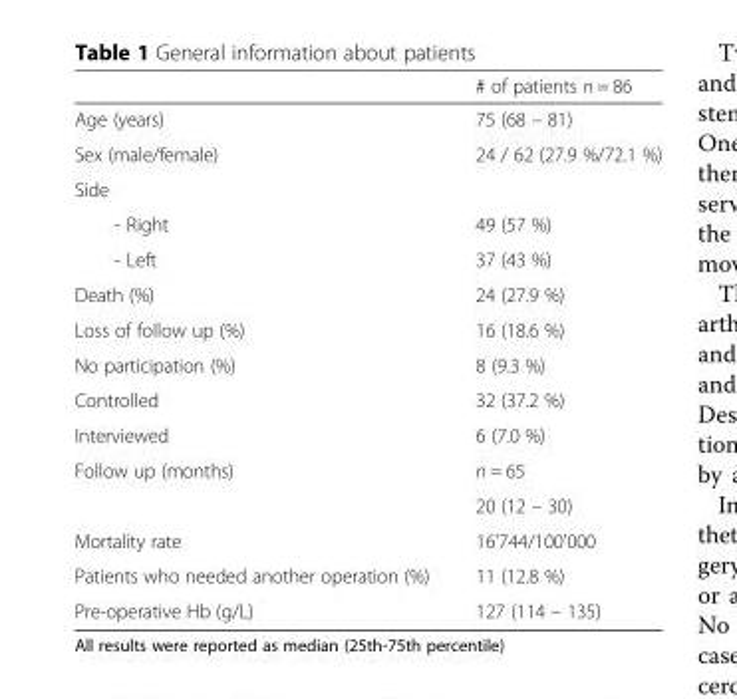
<table><thead><tr><td></td><td># of patients n = 86</td></tr></thead><tbody><tr><td>Age (years)</td><td>75 (68 – 81)</td></tr><tr><td>Sex (male/female)</td><td>24 / 62 (27.9 %/72.1 %)</td></tr><tr><td colspan="2">Side</td></tr><tr><td>- Right</td><td>49 (57 %)</td></tr><tr><td>- Left</td><td>37 (43 %)</td></tr><tr><td>Death (%)</td><td>24 (27.9 %)</td></tr><tr><td>Loss of follow up (%)</td><td>16 (18.6 %)</td></tr><tr><td>No participation (%)</td><td>8 (9.3 %)</td></tr><tr><td>Controlled</td><td>32 (37.2 %)</td></tr><tr><td>Interviewed</td><td>6 (7.0 %)</td></tr><tr><td rowspan="2">Follow up (months)</td><td>n = 65</td></tr><tr><td>20 (12 – 30)</td></tr><tr><td>Mortality rate</td><td>16&#x27;744/100&#x27;000</td></tr><tr><td>Patients who needed another operation (%)</td><td>11 (12.8 %)</td></tr><tr><td>Pre-operative Hb (g/L)</td><td>127 (114 – 135)</td></tr></tbody></table>